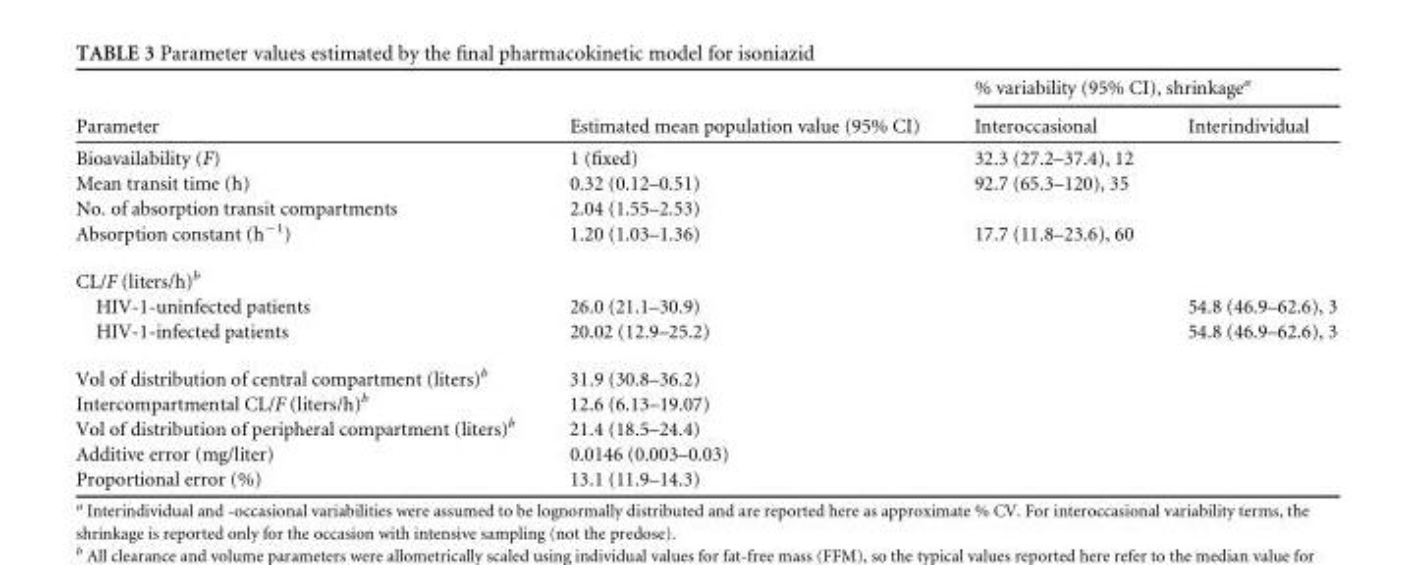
<table><thead><tr><td rowspan="2">Parameter</td><td rowspan="2">Estimated mean population value (95% CI)</td><td colspan="2">% variability (95% CI), shrinkage<sup>a</sup></td></tr><tr><td>Interoccasional</td><td>Interindividual</td></tr></thead><tbody><tr><td>Bioavailability (F)</td><td>1 (fixed)</td><td>32.3 (27.2–37.4), 12</td><td></td></tr><tr><td>Mean transit time (h)</td><td>0.32 (0.12–0.51)</td><td>92.7 (65.3–120), 35</td><td></td></tr><tr><td>No. of absorption transit compartments</td><td>2.04 (1.55–2.53)</td><td></td><td></td></tr><tr><td>Absorption constant (h<sup>−1</sup>)</td><td>1.20 (1.03–1.36)</td><td>17.7 (11.8–23.6), 60</td><td></td></tr><tr><td colspan="4">CL/F (liters/h)<sup>b</sup></td></tr><tr><td>HIV-1-uninfected patients</td><td>26.0 (21.1–30.9)</td><td></td><td>54.8 (46.9–62.6), 3</td></tr><tr><td>HIV-1-infected patients</td><td>20.02 (12.9–25.2)</td><td></td><td>54.8 (46.9–62.6), 3</td></tr><tr><td>Vol of distribution of central compartment (liters)<sup>b</sup></td><td>31.9 (30.8–36.2)</td><td></td><td></td></tr><tr><td>Intercompartmental CL/F (liters/h)<sup>b</sup></td><td>12.6 (6.13–19.07)</td><td></td><td></td></tr><tr><td>Vol of distribution of peripheral compartment (liters)<sup>b</sup></td><td>21.4 (18.5–24.4)</td><td></td><td></td></tr><tr><td>Additive error (mg/liter)</td><td>0.0146 (0.003–0.03)</td><td></td><td></td></tr><tr><td>Proportional error (%)</td><td>13.1 (11.9–14.3)</td><td></td><td></td></tr></tbody></table>